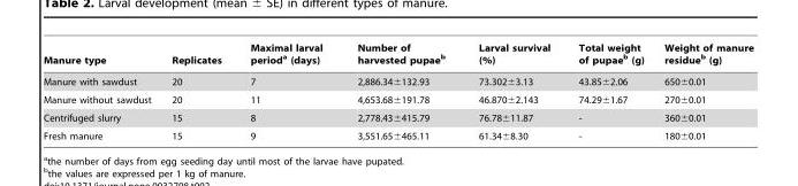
<table><thead><tr><td>Manure type</td><td>Replicates</td><td>Maximal larval period<sup>a</sup> (days)</td><td>Number of harvested pupae<sup>b</sup></td><td>Larval survival (%)</td><td>Total weight of pupae<sup>b</sup> (g)</td><td>Weight of manure residue<sup>b</sup> (g)</td></tr></thead><tbody><tr><td>Manure with sawdust</td><td>20</td><td>7</td><td>2,886.34±132.93</td><td>73.302±3.13</td><td>43.85±2.06</td><td>650±0.01</td></tr><tr><td>Manure without sawdust</td><td>20</td><td>11</td><td>4,653.68±191.78</td><td>46.870±2.143</td><td>74.29±1.67</td><td>270±0.01</td></tr><tr><td>Centrifuged slurry</td><td>15</td><td>8</td><td>2,778.43±415.79</td><td>76.78±11.87</td><td>-</td><td>360±0.01</td></tr><tr><td>Fresh manure</td><td>15</td><td>9</td><td>3,551.65±465.11</td><td>61.34±8.30</td><td>-</td><td>180±0.01</td></tr></tbody></table>